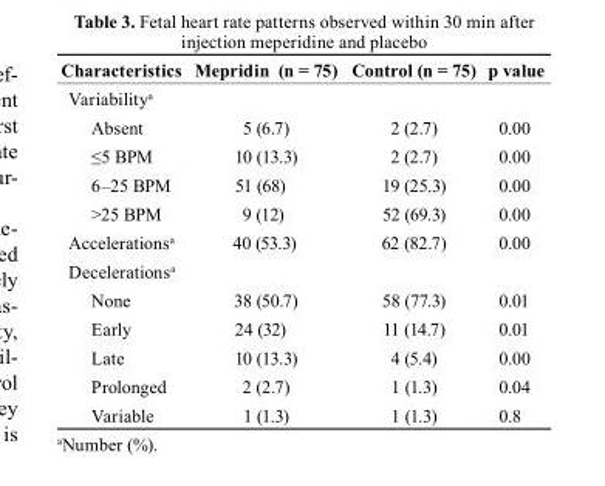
<table><thead><tr><td>characteristics</td><td>Mepridin (n = 75)</td><td>control (n = 75)</td><td>p value</td></tr></thead><tbody><tr><td colspan="4">Variability<sup>a</sup></td></tr><tr><td>Absent</td><td>5 (6.7)</td><td>2 (2.7)</td><td>0.00</td></tr><tr><td>≤5 BPM</td><td>10 (13.3)</td><td>2 (2.7)</td><td>0.00</td></tr><tr><td>6–25 BPM</td><td>51 (68)</td><td>19 (25.3)</td><td>0.00</td></tr><tr><td>&gt;25 BPM</td><td>9 (12)</td><td>52 (69.3)</td><td>0.00</td></tr><tr><td>Accelerations<sup>a</sup></td><td>40 (53.3)</td><td>62 (82.7)</td><td>0.00</td></tr><tr><td colspan="4">Decelerations<sup>a</sup></td></tr><tr><td>None</td><td>38 (50.7)</td><td>58 (77.3)</td><td>0.01</td></tr><tr><td>Early</td><td>24 (32)</td><td>11 (14.7)</td><td>0.01</td></tr><tr><td>Late</td><td>10 (13.3)</td><td>4 (5.4)</td><td>0.00</td></tr><tr><td>Prolonged</td><td>2 (2.7)</td><td>1 (1.3)</td><td>0.04</td></tr><tr><td>Variable</td><td>1 (1.3)</td><td>1 (1.3)</td><td>0.8</td></tr></tbody></table>